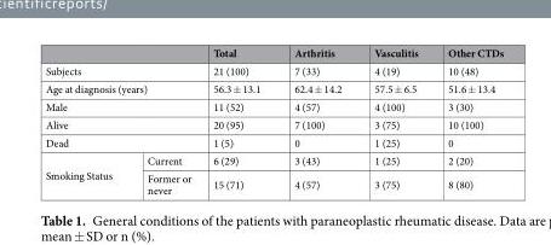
<table><thead><tr><td></td><td></td><td>Total</td><td>Arthritis</td><td>Vasculitis</td><td>Other CTDs</td></tr></thead><tbody><tr><td colspan="2">Subjects</td><td>21 (100)</td><td>7 (33)</td><td>4 (19)</td><td>10 (48)</td></tr><tr><td colspan="2">Age at diagnosis (years)</td><td>56.3 ± 13.1</td><td>62.4 ± 14.2</td><td>57.5 ± 6.5</td><td>51.6 ± 13.4</td></tr><tr><td colspan="2">Male</td><td>11 (52)</td><td>4 (57)</td><td>4 (100)</td><td>3 (30)</td></tr><tr><td colspan="2">Alive</td><td>20 (95)</td><td>7 (100)</td><td>3 (75)</td><td>10 (100)</td></tr><tr><td colspan="2">Dead</td><td>1 (5)</td><td>0</td><td>1 (25)</td><td>0</td></tr><tr><td rowspan="2">Smoking Status</td><td>Current</td><td>6 (29)</td><td>3 (43)</td><td>1 (25)</td><td>2 (20)</td></tr><tr><td>Former or never</td><td>15 (71)</td><td>4 (57)</td><td>3 (75)</td><td>8 (80)</td></tr></tbody></table>